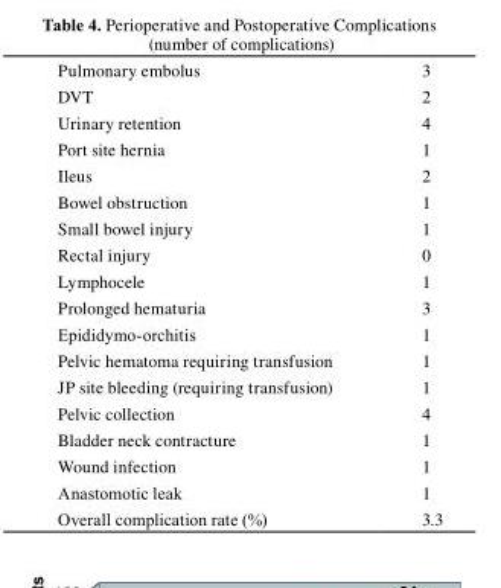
<table><tbody><tr><td>Pulmonary embolus</td><td>3</td></tr><tr><td>DVT</td><td>2</td></tr><tr><td>Urinary retention</td><td>4</td></tr><tr><td>Port site hernia</td><td>1</td></tr><tr><td>Ileus</td><td>2</td></tr><tr><td>Bowel obstruction</td><td>1</td></tr><tr><td>Small bowel injury</td><td>1</td></tr><tr><td>Rectal injury</td><td>0</td></tr><tr><td>Lymphocele</td><td>1</td></tr><tr><td>Prolonged hematuria</td><td>3</td></tr><tr><td>Epididymo-orchitis</td><td>1</td></tr><tr><td>Pelvic hematoma requiring transfusion</td><td>1</td></tr><tr><td>JP site bleeding (requiring transfusion)</td><td>1</td></tr><tr><td>Pelvic collection</td><td>4</td></tr><tr><td>Bladder neck contracture</td><td>1</td></tr><tr><td>Wound infection</td><td>1</td></tr><tr><td>Anastomotic leak</td><td>1</td></tr><tr><td>Overall complication rate (%)</td><td>3.3</td></tr></tbody></table>